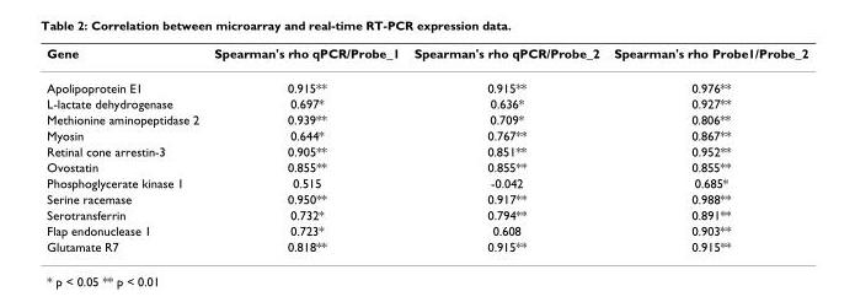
<table><thead><tr><td>Gene</td><td>Spearman&#x27;s rho qPCR/Probe_1</td><td>Spearman&#x27;s rho qPCR/Probe_2</td><td>Spearman&#x27;s rho Probe1/Probe_2</td></tr></thead><tbody><tr><td>Apolipoprotein E1</td><td>0.915**</td><td>0.915**</td><td>0.976**</td></tr><tr><td>L-lactate dehydrogenase</td><td>0.697*</td><td>0.636*</td><td>0.927**</td></tr><tr><td>Methionine aminopeptidase 2</td><td>0.939**</td><td>0.709*</td><td>0.806**</td></tr><tr><td>Myosin</td><td>0.644*</td><td>0.767**</td><td>0.867**</td></tr><tr><td>Retinal cone arrestin-3</td><td>0.905**</td><td>0.851**</td><td>0.952**</td></tr><tr><td>Ovostatin</td><td>0.855**</td><td>0.855**</td><td>0.855**</td></tr><tr><td>Phosphoglycerate kinase 1</td><td>0.515</td><td>-0.042</td><td>0.685*</td></tr><tr><td>Serine racemase</td><td>0.950**</td><td>0.917**</td><td>0.988**</td></tr><tr><td>Serotransferrin</td><td>0.732*</td><td>0.794**</td><td>0.891**</td></tr><tr><td>Flap endonuclease 1</td><td>0.723*</td><td>0.608</td><td>0.903**</td></tr><tr><td>Glutamate R7</td><td>0.818**</td><td>0.915**</td><td>0.915**</td></tr></tbody></table>